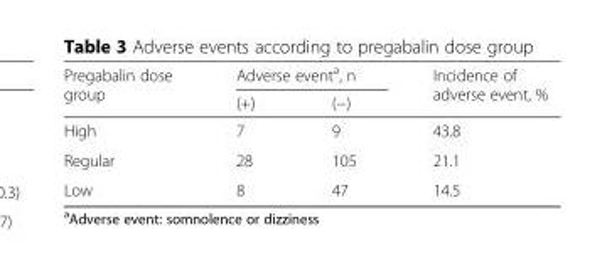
<table><thead><tr><td rowspan="2">Pregabalin dose group</td><td colspan="2">Adverse event<sup>a</sup>, n</td><td rowspan="2">Incidence of adverse event, %</td></tr><tr><td>(+)</td><td>(−)</td></tr></thead><tbody><tr><td>High</td><td>7</td><td>9</td><td>43.8</td></tr><tr><td>Regular</td><td>28</td><td>105</td><td>21.1</td></tr><tr><td>Low</td><td>8</td><td>47</td><td>14.5</td></tr></tbody></table>